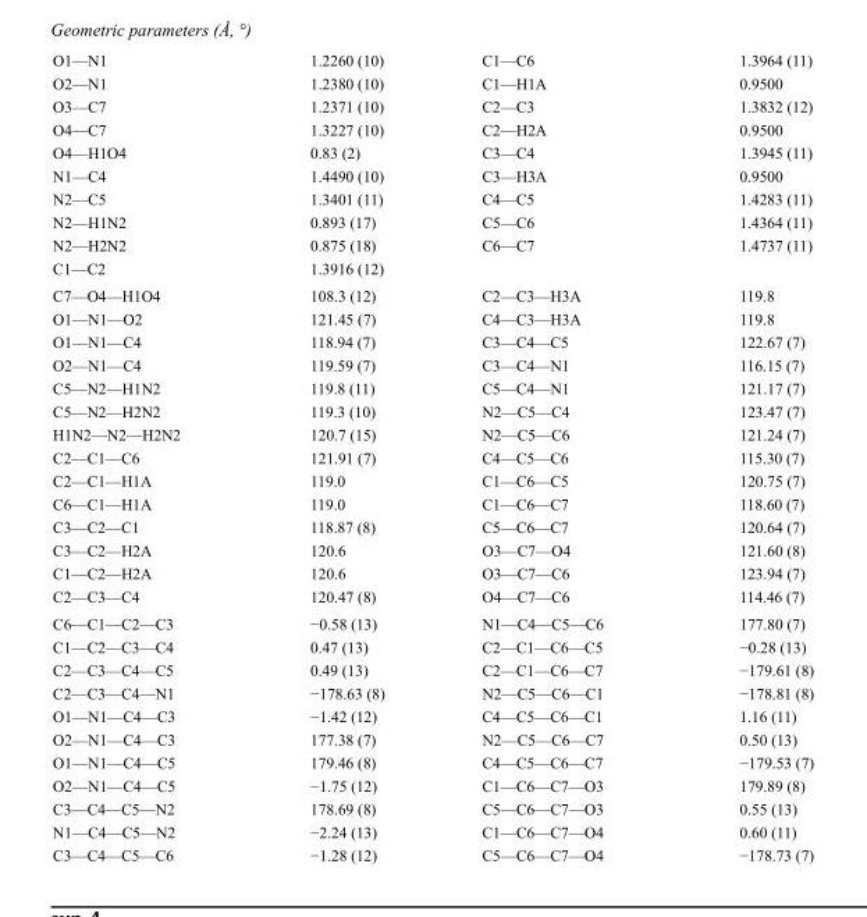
<table><tbody><tr><td>O1—N1</td><td>1.2260 (10)</td><td>C1—C6</td><td>1.3964 (11)</td></tr><tr><td>O2—N1</td><td>1.2380 (10)</td><td>C1—H1A</td><td>0.9500</td></tr><tr><td>O3—C7</td><td>1.2371 (10)</td><td>C2—C3</td><td>1.3832 (12)</td></tr><tr><td>O4—C7</td><td>1.3227 (10)</td><td>C2—H2A</td><td>0.9500</td></tr><tr><td>O4—H1O4</td><td>0.83 (2)</td><td>C3—C4</td><td>1.3945 (11)</td></tr><tr><td>N1—C4</td><td>1.4490 (10)</td><td>C3—H3A</td><td>0.9500</td></tr><tr><td>N2—C5</td><td>1.3401 (11)</td><td>C4—C5</td><td>1.4283 (11)</td></tr><tr><td>N2—H1N2</td><td>0.893 (17)</td><td>C5—C6</td><td>1.4364 (11)</td></tr><tr><td>N2—H2N2</td><td>0.875 (18)</td><td>C6—C7</td><td>1.4737 (11)</td></tr><tr><td>C1—C2</td><td>1.3916 (12)</td><td></td><td></td></tr><tr><td>C7—O4—H1O4</td><td>108.3 (12)</td><td>C2—C3—H3A</td><td>119.8</td></tr><tr><td>O1—N1—O2</td><td>121.45 (7)</td><td>C4—C3—H3A</td><td>119.8</td></tr><tr><td>O1—N1—C4</td><td>118.94 (7)</td><td>C3—C4—C5</td><td>122.67 (7)</td></tr><tr><td>O2—N1—C4</td><td>119.59 (7)</td><td>C3—C4—N1</td><td>116.15 (7)</td></tr><tr><td>C5—N2—H1N2</td><td>119.8 (11)</td><td>C5—C4—N1</td><td>121.17 (7)</td></tr><tr><td>C5—N2—H2N2</td><td>119.3 (10)</td><td>N2—C5—C4</td><td>123.47 (7)</td></tr><tr><td>H1N2—N2—H2N2</td><td>120.7 (15)</td><td>N2—C5—C6</td><td>121.24 (7)</td></tr><tr><td>C2—C1—C6</td><td>121.91 (7)</td><td>C4—C5—C6</td><td>115.30 (7)</td></tr><tr><td>C2—C1—H1A</td><td>119.0</td><td>C1—C6—C5</td><td>120.75 (7)</td></tr><tr><td>C6—C1—H1A</td><td>119.0</td><td>C1—C6—C7</td><td>118.60 (7)</td></tr><tr><td>C3—C2—C1</td><td>118.87 (8)</td><td>C5—C6—C7</td><td>120.64 (7)</td></tr><tr><td>C3—C2—H2A</td><td>120.6</td><td>O3—C7—O4</td><td>121.60 (8)</td></tr><tr><td>C1—C2—H2A</td><td>120.6</td><td>O3—C7—C6</td><td>123.94 (7)</td></tr><tr><td>C2—C3—C4</td><td>120.47 (8)</td><td>O4—C7—C6</td><td>114.46 (7)</td></tr><tr><td>C6—C1—C2—C3</td><td>−0.58 (13)</td><td>N1—C4—C5—C6</td><td>177.80 (7)</td></tr><tr><td>C1—C2—C3—C4</td><td>0.47 (13)</td><td>C2—C1—C6—C5</td><td>−0.28 (13)</td></tr><tr><td>C2—C3—C4—C5</td><td>0.49 (13)</td><td>C2—C1—C6—C7</td><td>−179.61 (8)</td></tr><tr><td>C2—C3—C4—N1</td><td>−178.63 (8)</td><td>N2—C5—C6—C1</td><td>−178.81 (8)</td></tr><tr><td>O1—N1—C4—C3</td><td>−1.42 (12)</td><td>C4—C5—C6—C1</td><td>1.16 (11)</td></tr><tr><td>O2—N1—C4—C3</td><td>177.38 (7)</td><td>N2—C5—C6—C7</td><td>0.50 (13)</td></tr><tr><td>O1—N1—C4—C5</td><td>179.46 (8)</td><td>C4—C5—C6—C7</td><td>−179.53 (7)</td></tr><tr><td>O2—N1—C4—C5</td><td>−1.75 (12)</td><td>C1—C6—C7—O3</td><td>179.89 (8)</td></tr><tr><td>C3—C4—C5—N2</td><td>178.69 (8)</td><td>C5—C6—C7—O3</td><td>0.55 (13)</td></tr><tr><td>N1—C4—C5—N2</td><td>−2.24 (13)</td><td>C1—C6—C7—O4</td><td>0.60 (11)</td></tr><tr><td>C3—C4—C5—C6</td><td>−1.28 (12)</td><td>C5—C6—C7—O4</td><td>−178.73 (7)</td></tr></tbody></table>